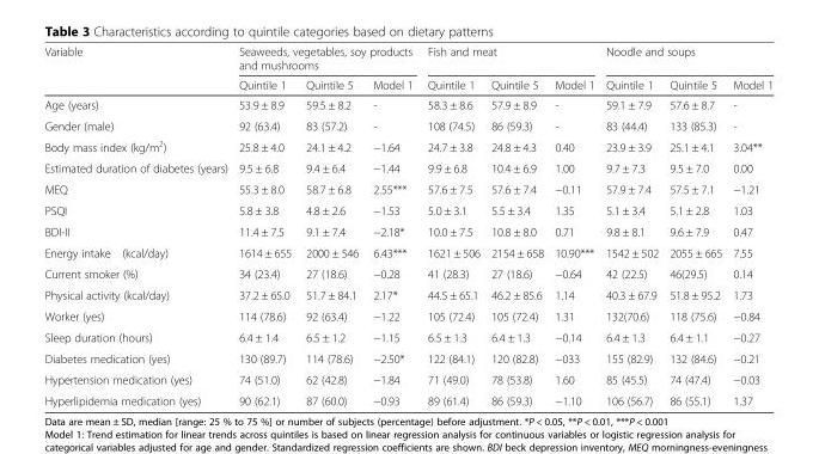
<table><thead><tr><td rowspan="2">Variable</td><td colspan="3">Seaweeds, vegetables, soy products and mushrooms</td><td colspan="3">Fish and meat</td><td colspan="3">Noodle and soups</td></tr><tr><td>Quintile 1</td><td>Quintile 5</td><td>Model 1</td><td>Quintile 1</td><td>Quintile 5</td><td>Model 1</td><td>Quintile 1</td><td>Quintile 5</td><td>Model 1</td></tr></thead><tbody><tr><td>Age (years)</td><td>53.9 ± 8.9</td><td>59.5 ± 8.2</td><td>-</td><td>58.3 ± 8.6</td><td>57.9 ± 8.9</td><td>-</td><td>59.1 ± 7.9</td><td>57.6 ± 8.7</td><td>-</td></tr><tr><td>Gender (male)</td><td>92 (63.4)</td><td>83 (57.2)</td><td>-</td><td>108 (74.5)</td><td>86 (59.3)</td><td>-</td><td>83 (44.4)</td><td>133 (85.3)</td><td>-</td></tr><tr><td>Body mass index (kg/m<sup>2</sup>)</td><td>25.8 ± 4.0</td><td>24.1 ± 4.2</td><td>−1.64</td><td>24.7 ± 3.8</td><td>24.8 ± 4.3</td><td>0.40</td><td>23.9 ± 3.9</td><td>25.1 ± 4.1</td><td>3.04**</td></tr><tr><td>Estimated duration of diabetes (years)</td><td>9.5 ± 6.8</td><td>9.4 ± 6.4</td><td>−1.44</td><td>9.9 ± 6.8</td><td>10.4 ± 6.9</td><td>1.00</td><td>9.7 ± 7.3</td><td>9.5 ± 7.0</td><td>0.00</td></tr><tr><td>MEQ</td><td>55.3 ± 8.0</td><td>58.7 ± 6.8</td><td>2.55***</td><td>57.6 ± 7.5</td><td>57.6 ± 7.4</td><td>−0.11</td><td>57.9 ± 7.4</td><td>57.5 ± 7.1</td><td>−1.21</td></tr><tr><td>PSQI</td><td>5.8 ± 3.8</td><td>4.8 ± 2.6</td><td>−1.53</td><td>5.0 ± 3.1</td><td>5.5 ± 3.4</td><td>1.35</td><td>5.1 ± 3.4</td><td>5.1 ± 2.8</td><td>1.03</td></tr><tr><td>BDI-II</td><td>11.4 ± 7.5</td><td>9.1 ± 7.4</td><td>−2.18*</td><td>10.0 ± 7.5</td><td>10.8 ± 8.0</td><td>0.71</td><td>9.8 ± 8.1</td><td>9.6 ± 7.9</td><td>0.47</td></tr><tr><td>Energy intake (kcal/day)</td><td>1614 ± 655</td><td>2000 ± 546</td><td>6.43***</td><td>1621 ± 506</td><td>2154 ± 658</td><td>10.90***</td><td>1542 ± 502</td><td>2055 ± 665</td><td>7.55</td></tr><tr><td>Current smoker (%)</td><td>34 (23.4)</td><td>27 (18.6)</td><td>−0.28</td><td>41 (28.3)</td><td>27 (18.6)</td><td>−0.64</td><td>42 (22.5)</td><td>46(29.5)</td><td>0.14</td></tr><tr><td>Physical activity (kcal/day)</td><td>37.2 ± 65.0</td><td>51.7 ± 84.1</td><td>2.17*</td><td>44.5 ± 65.1</td><td>46.2 ± 85.6</td><td>1.14</td><td>40.3 ± 67.9</td><td>51.8 ± 95.2</td><td>1.73</td></tr><tr><td>Worker (yes)</td><td>114 (78.6)</td><td>92 (63.4)</td><td>−1.22</td><td>105 (72.4)</td><td>105 (72.4)</td><td>1.31</td><td>132(70.6)</td><td>118 (75.6)</td><td>−0.84</td></tr><tr><td>Sleep duration (hours)</td><td>6.4 ± 1.4</td><td>6.5 ± 1.2</td><td>−1.15</td><td>6.5 ± 1.3</td><td>6.4 ± 1.3</td><td>−0.14</td><td>6.4 ± 1.3</td><td>6.4 ± 1.1</td><td>−0.27</td></tr><tr><td>Diabetes medication (yes)</td><td>130 (89.7)</td><td>114 (78.6)</td><td>−2.50*</td><td>122 (84.1)</td><td>120 (82.8)</td><td>−033</td><td>155 (82.9)</td><td>132 (84.6)</td><td>−0.21</td></tr><tr><td>Hypertension medication (yes)</td><td>74 (51.0)</td><td>62 (42.8)</td><td>−1.84</td><td>71 (49.0)</td><td>78 (53.8)</td><td>1.60</td><td>85 (45.5)</td><td>74 (47.4)</td><td>−0.03</td></tr><tr><td>Hyperlipidemia medication (yes)</td><td>90 (62.1)</td><td>87 (60.0)</td><td>−0.93</td><td>89 (61.4)</td><td>86 (59.3)</td><td>−1.10</td><td>106 (56.7)</td><td>86 (55.1)</td><td>1.37</td></tr></tbody></table>